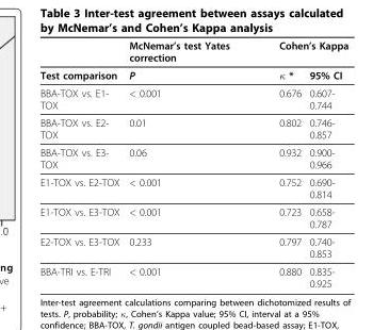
<table><thead><tr><td rowspan="2">Test comparison</td><td rowspan="2">McNemar’s test Yates correction P</td><td colspan="2">Cohen’s Kappa</td></tr><tr><td>κ *</td><td>95% CI</td></tr></thead><tbody><tr><td>BBA-TOX vs. E1- TOX</td><td>&lt; 0.001</td><td>0.676</td><td>0.607- 0.744</td></tr><tr><td>BBA-TOX vs. E2- TOX</td><td>0.01</td><td>0.802</td><td>0.746- 0.857</td></tr><tr><td>BBA-TOX vs. E3- TOX</td><td>0.06</td><td>0.932</td><td>0.900- 0.966</td></tr><tr><td>E1-TOX vs. E2-TOX</td><td>&lt; 0.001</td><td>0.752</td><td>0.690- 0.814</td></tr><tr><td>E1-TOX vs. E3-TOX</td><td>&lt; 0.001</td><td>0.723</td><td>0.658- 0.787</td></tr><tr><td>E2-TOX vs. E3-TOX</td><td>0.233</td><td>0.797</td><td>0.740- 0.853</td></tr><tr><td>BBA-TRI vs. E-TRI</td><td>&lt; 0.001</td><td>0.880</td><td>0.835- 0.925</td></tr></tbody></table>